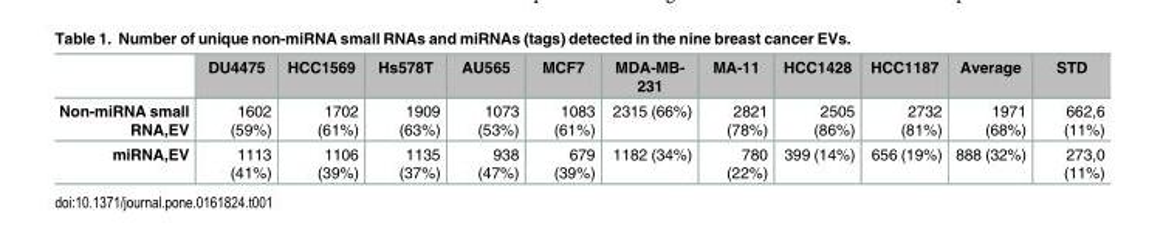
<table><thead><tr><td></td><td>DU4475</td><td>HCC1569</td><td>Hs578T</td><td>AU565</td><td>MCF7</td><td>MDA-MB- 231</td><td>MA-11</td><td>HCC1428</td><td>HCC1187</td><td>Average</td><td>STD</td></tr></thead><tbody><tr><td>Non-miRNA small RNA,EV</td><td>1602 (59%)</td><td>1702 (61%)</td><td>1909 (63%)</td><td>1073 (53%)</td><td>1083 (61%)</td><td>2315 (66%)</td><td>2821 (78%)</td><td>2505 (86%)</td><td>2732 (81%)</td><td>1971 (68%)</td><td>662,6 (11%)</td></tr><tr><td>miRNA,EV</td><td>1113 (41%)</td><td>1106 (39%)</td><td>1135 (37%)</td><td>938 (47%)</td><td>679 (39%)</td><td>1182 (34%)</td><td>780 (22%)</td><td>399 (14%)</td><td>656 (19%)</td><td>888 (32%)</td><td>273,0 (11%)</td></tr></tbody></table>